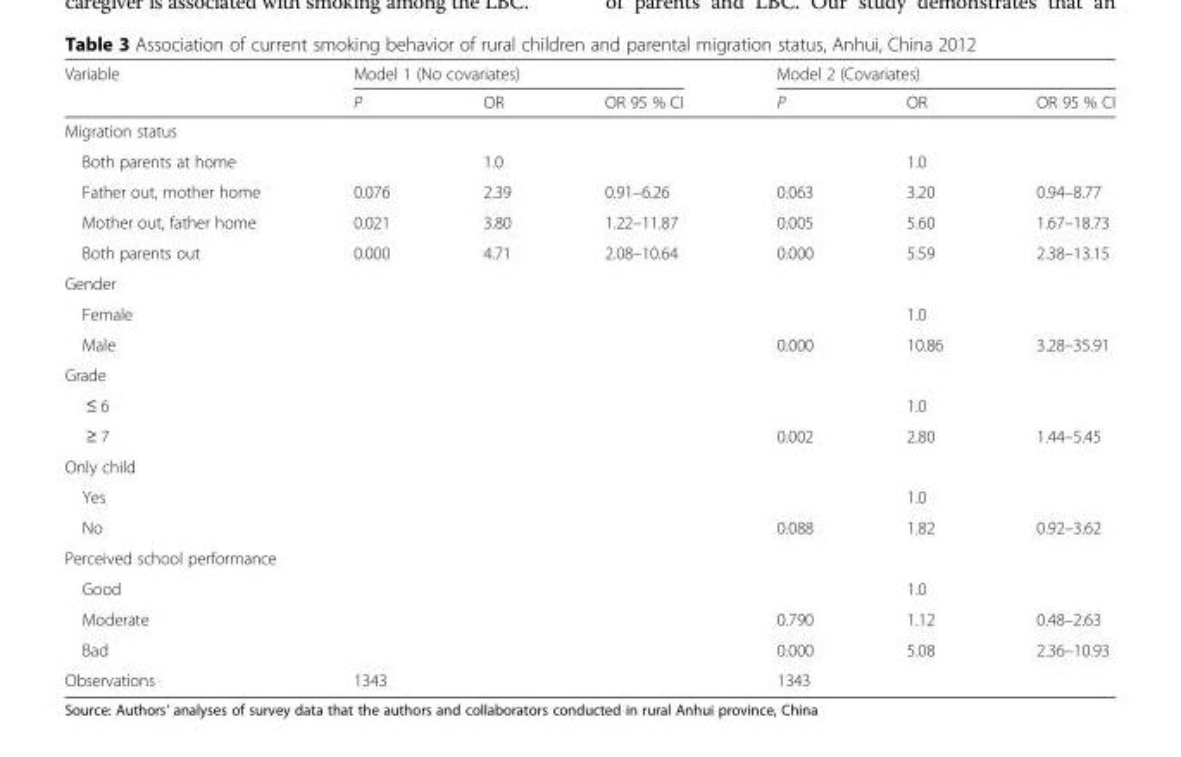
<table><thead><tr><td rowspan="2">Variable</td><td colspan="3">Model 1 (No covariates)</td><td colspan="3">Model 2 (Covariates)</td></tr><tr><td>P</td><td>OR</td><td>OR 95 % CI</td><td>P</td><td>OR</td><td>OR 95 % CI</td></tr></thead><tbody><tr><td colspan="7">Migration status</td></tr><tr><td>Both parents at home</td><td></td><td>1.0</td><td></td><td></td><td>1.0</td><td></td></tr><tr><td>Father out, mother home</td><td>0.076</td><td>2.39</td><td>0.91–6.26</td><td>0.063</td><td>3.20</td><td>0.94–8.77</td></tr><tr><td>Mother out, father home</td><td>0.021</td><td>3.80</td><td>1.22–11.87</td><td>0.005</td><td>5.60</td><td>1.67–18.73</td></tr><tr><td>Both parents out</td><td>0.000</td><td>4.71</td><td>2.08–10.64</td><td>0.000</td><td>5.59</td><td>2.38–13.15</td></tr><tr><td colspan="7">Gender</td></tr><tr><td>Female</td><td></td><td></td><td></td><td></td><td>1.0</td><td></td></tr><tr><td>Male</td><td></td><td></td><td></td><td>0.000</td><td>10.86</td><td>3.28–35.91</td></tr><tr><td colspan="7">Grade</td></tr><tr><td>≤ 6</td><td></td><td></td><td></td><td></td><td>1.0</td><td></td></tr><tr><td>≥ 7</td><td></td><td></td><td></td><td>0.002</td><td>2.80</td><td>1.44–5.45</td></tr><tr><td colspan="7">Only child</td></tr><tr><td>Yes</td><td></td><td></td><td></td><td></td><td>1.0</td><td></td></tr><tr><td>No</td><td></td><td></td><td></td><td>0.088</td><td>1.82</td><td>0.92–3.62</td></tr><tr><td colspan="7">Perceived school performance</td></tr><tr><td>Good</td><td></td><td></td><td></td><td></td><td>1.0</td><td></td></tr><tr><td>Moderate</td><td></td><td></td><td></td><td>0.790</td><td>1.12</td><td>0.48–2.63</td></tr><tr><td>Bad</td><td></td><td></td><td></td><td>0.000</td><td>5.08</td><td>2.36–10.93</td></tr><tr><td>Observations</td><td>1343</td><td></td><td></td><td>1343</td><td></td><td></td></tr></tbody></table>